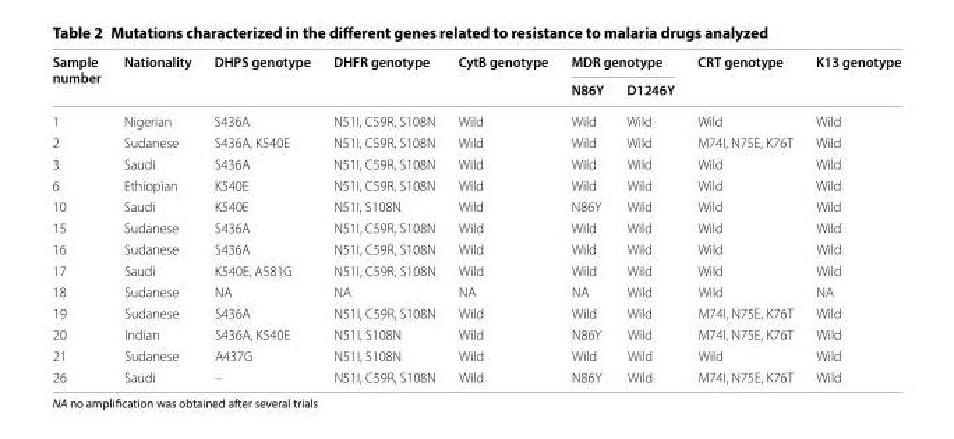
<table><thead><tr><td rowspan="2">Sample number</td><td rowspan="2">Nationality</td><td rowspan="2">DHPS genotype</td><td rowspan="2">DHFR genotype</td><td rowspan="2">CytB genotype</td><td colspan="2">MDR genotype</td><td rowspan="2">CRT genotype</td><td rowspan="2">K13 genotype</td></tr><tr><td>N86Y</td><td>D1246Y</td></tr></thead><tbody><tr><td>1</td><td>Nigerian</td><td>S436A</td><td>N51I, C59R, S108N</td><td>Wild</td><td>Wild</td><td>Wild</td><td>Wild</td><td>Wild</td></tr><tr><td>2</td><td>Sudanese</td><td>S436A, K540E</td><td>N51I, C59R, S108N</td><td>Wild</td><td>Wild</td><td>Wild</td><td>M74I, N75E, K76T</td><td>Wild</td></tr><tr><td>3</td><td>Saudi</td><td>S436A</td><td>N51I, C59R, S108N</td><td>Wild</td><td>Wild</td><td>Wild</td><td>Wild</td><td>Wild</td></tr><tr><td>6</td><td>Ethiopian</td><td>K540E</td><td>N51I, C59R, S108N</td><td>Wild</td><td>Wild</td><td>Wild</td><td>Wild</td><td>Wild</td></tr><tr><td>10</td><td>Saudi</td><td>K540E</td><td>N51I, S108N</td><td>Wild</td><td>N86Y</td><td>Wild</td><td>Wild</td><td>Wild</td></tr><tr><td>15</td><td>Sudanese</td><td>S436A</td><td>N51I, C59R, S108N</td><td>Wild</td><td>Wild</td><td>Wild</td><td>Wild</td><td>Wild</td></tr><tr><td>16</td><td>Sudanese</td><td>S436A</td><td>N51I, C59R, S108N</td><td>Wild</td><td>Wild</td><td>Wild</td><td>Wild</td><td>Wild</td></tr><tr><td>17</td><td>Saudi</td><td>K540E, A581G</td><td>N51I, C59R, S108N</td><td>Wild</td><td>Wild</td><td>Wild</td><td>Wild</td><td>Wild</td></tr><tr><td>18</td><td>Sudanese</td><td>NA</td><td>NA</td><td>NA</td><td>NA</td><td>Wild</td><td>Wild</td><td>NA</td></tr><tr><td>19</td><td>Sudanese</td><td>S436A</td><td>N51I, C59R, S108N</td><td>Wild</td><td>Wild</td><td>Wild</td><td>M74I, N75E, K76T</td><td>Wild</td></tr><tr><td>20</td><td>Indian</td><td>S436A, K540E</td><td>N51I, S108N</td><td>Wild</td><td>N86Y</td><td>Wild</td><td>M74I, N75E, K76T</td><td>Wild</td></tr><tr><td>21</td><td>Sudanese</td><td>A437G</td><td>N51I, S108N</td><td>Wild</td><td>Wild</td><td>Wild</td><td>Wild</td><td>Wild</td></tr><tr><td>26</td><td>Saudi</td><td>–</td><td>N51I, C59R, S108N</td><td>Wild</td><td>N86Y</td><td>Wild</td><td>M74I, N75E, K76T</td><td>Wild</td></tr></tbody></table>